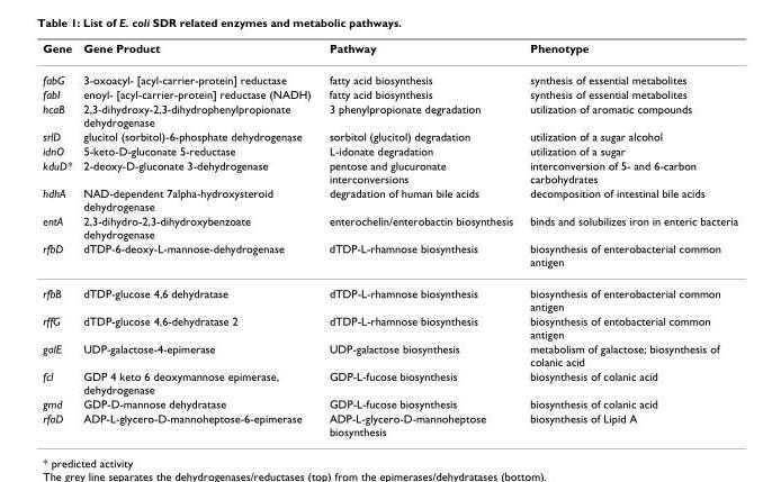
<table><thead><tr><td>Gene</td><td>Gene Product</td><td>Pathway</td><td>Phenotype</td></tr></thead><tbody><tr><td>fabG</td><td>3-oxoacyl- [acyl-carrier-protein] reductase</td><td>fatty acid biosynthesis</td><td>synthesis of essential metabolites</td></tr><tr><td>fabI</td><td>enoyl- [acyl-carrier-protein] reductase (NADH)</td><td>fatty acid biosynthesis</td><td>synthesis of essential metabolites</td></tr><tr><td>hcaB</td><td>2,3-dihydroxy-2,3-dihydrophenylpropionate dehydrogenase</td><td>3 phenylpropionate degradation</td><td>utilization of aromatic compounds</td></tr><tr><td>srlD</td><td>glucitol (sorbitol)-6-phosphate dehydrogenase</td><td>sorbitol (glucitol) degradation</td><td>utilization of a sugar alcohol</td></tr><tr><td>idnO</td><td>5-keto-D-gluconate 5-reductase</td><td>L-idonate degradation</td><td>utilization of a sugar</td></tr><tr><td>kduD*</td><td>2-deoxy-D-gluconate 3-dehydrogenase</td><td>pentose and glucuronate interconversions</td><td>interconversion of 5- and 6-carbon carbohydrates</td></tr><tr><td>hdhA</td><td>NAD-dependent 7alpha-hydroxysteroid dehydrogenase</td><td>degradation of human bile acids</td><td>decomposition of intestinal bile acids</td></tr><tr><td>entA</td><td>2,3-dihydro-2,3-dihydroxybenzoate dehydrogenase</td><td>enterochelin/enterobactin biosynthesis</td><td>binds and solubilizes iron in enteric bacteria</td></tr><tr><td>rfbD</td><td>dTDP-6-deoxy-L-mannose-dehydrogenase</td><td>dTDP-L-rhamnose biosynthesis</td><td>biosynthesis of enterobacterial common antigen</td></tr><tr><td>rfbB</td><td>dTDP-glucose 4,6 dehydratase</td><td>dTDP-L-rhamnose biosynthesis</td><td>biosynthesis of enterobacterial common antigen</td></tr><tr><td>rffG</td><td>dTDP-glucose 4,6-dehydratase 2</td><td>dTDP-L-rhamnose biosynthesis</td><td>biosynthesis of entobacterial common antigen</td></tr><tr><td>galE</td><td>UDP-galactose-4-epimerase</td><td>UDP-galactose biosynthesis</td><td>metabolism of galactose; biosynthesis of colanic acid</td></tr><tr><td>fcl</td><td>GDP 4 keto 6 deoxymannose epimerase, dehydrogenase</td><td>GDP-L-fucose biosynthesis</td><td>biosynthesis of colanic acid</td></tr><tr><td>gmd</td><td>GDP-D-mannose dehydratase</td><td>GDP-L-fucose biosynthesis</td><td>biosynthesis of colanic acid</td></tr><tr><td>rfaD</td><td>ADP-L-glycero-D-mannoheptose-6-epimerase</td><td>ADP-L-glycero-D-mannoheptose biosynthesis</td><td>biosynthesis of Lipid A</td></tr></tbody></table>